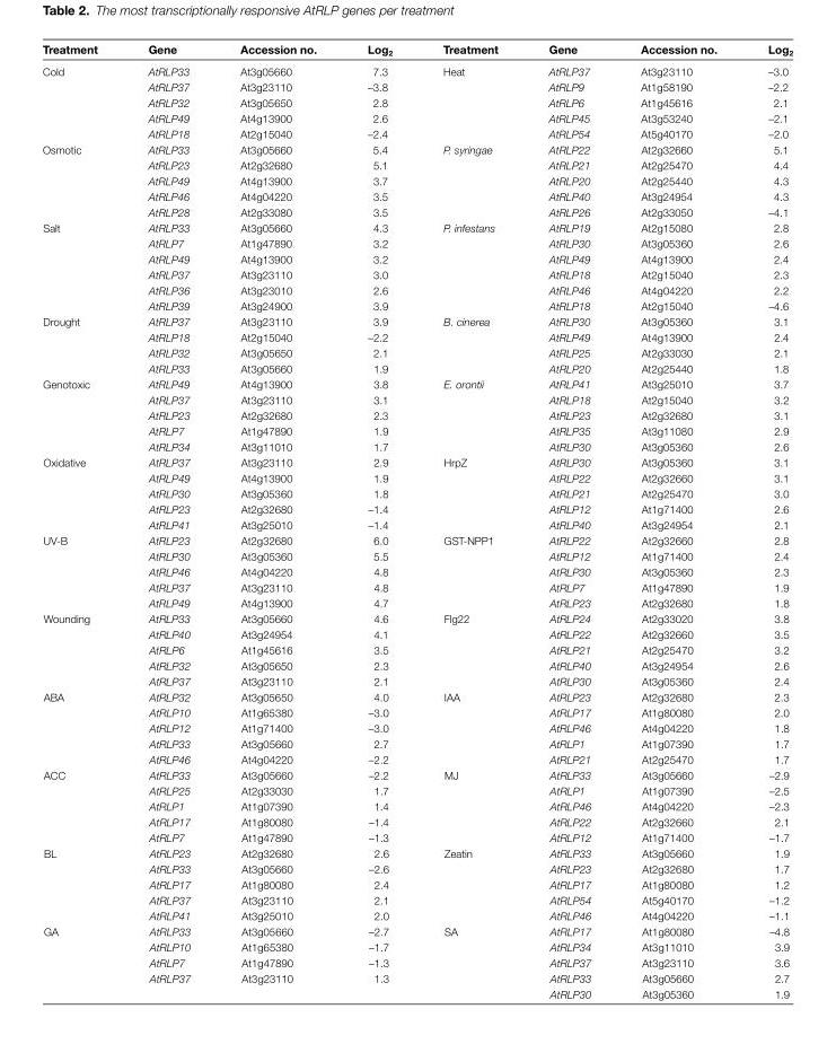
<table><thead><tr><td>Treatment</td><td>Gene</td><td>Accession no.</td><td>Log<sub>2</sub></td><td>Treatment</td><td>Gene</td><td>Accession no.</td><td>Log<sub>2</sub></td></tr></thead><tbody><tr><td rowspan="5">Cold</td><td>AtRLP33</td><td>At3g05660</td><td>7.3</td><td>Heat</td><td>AtRLP37</td><td>At3g23110</td><td>–3.0</td></tr><tr><td>AtRLP37</td><td>At3g23110</td><td>–3.8</td><td></td><td>AtRLP9</td><td>At1g58190</td><td>–2.2</td></tr><tr><td>AtRLP32</td><td>At3g05650</td><td>2.8</td><td></td><td>AtRLP6</td><td>At1g45616</td><td>2.1</td></tr><tr><td>AtRLP49</td><td>At4g13900</td><td>2.6</td><td></td><td>AtRLP45</td><td>At3g53240</td><td>–2.1</td></tr><tr><td>AtRLP18</td><td>At2g15040</td><td>–2.4</td><td></td><td>AtRLP54</td><td>At5g40170</td><td>–2.0</td></tr><tr><td rowspan="5">Osmotic</td><td>AtRLP33</td><td>At3g05660</td><td>5.4</td><td>P. syringae</td><td>AtRLP22</td><td>At2g32660</td><td>5.1</td></tr><tr><td>AtRLP23</td><td>At2g32680</td><td>5.1</td><td></td><td>AtRLP21</td><td>At2g25470</td><td>4.4</td></tr><tr><td>AtRLP49</td><td>At4g13900</td><td>3.7</td><td></td><td>AtRLP20</td><td>At2g25440</td><td>4.3</td></tr><tr><td>AtRLP46</td><td>At4g04220</td><td>3.5</td><td></td><td>AtRLP40</td><td>At3g24954</td><td>4.3</td></tr><tr><td>AtRLP28</td><td>At2g33080</td><td>3.5</td><td></td><td>AtRLP26</td><td>At2g33050</td><td>–4.1</td></tr><tr><td rowspan="6">Salt</td><td>AtRLP33</td><td>At3g05660</td><td>4.3</td><td>P. infestans</td><td>AtRLP19</td><td>At2g15080</td><td>2.8</td></tr><tr><td>AtRLP7</td><td>At1g47890</td><td>3.2</td><td></td><td>AtRLP30</td><td>At3g05360</td><td>2.6</td></tr><tr><td>AtRLP49</td><td>At4g13900</td><td>3.2</td><td></td><td>AtRLP49</td><td>At4g13900</td><td>2.4</td></tr><tr><td>AtRLP37</td><td>At3g23110</td><td>3.0</td><td></td><td>AtRLP18</td><td>At2g15040</td><td>2.3</td></tr><tr><td>AtRLP36</td><td>At3g23010</td><td>2.6</td><td></td><td>AtRLP46</td><td>At4g04220</td><td>2.2</td></tr><tr><td>AtRLP39</td><td>At3g24900</td><td>3.9</td><td></td><td>AtRLP18</td><td>At2g15040</td><td>–4.6</td></tr><tr><td rowspan="4">Drought</td><td>AtRLP37</td><td>At3g23110</td><td>3.9</td><td>B. cinerea</td><td>AtRLP30</td><td>At3g05360</td><td>3.1</td></tr><tr><td>AtRLP18</td><td>At2g15040</td><td>–2.2</td><td></td><td>AtRLP49</td><td>At4g13900</td><td>2.4</td></tr><tr><td>AtRLP32</td><td>At3g05650</td><td>2.1</td><td></td><td>AtRLP25</td><td>At2g33030</td><td>2.1</td></tr><tr><td>AtRLP33</td><td>At3g05660</td><td>1.9</td><td></td><td>AtRLP20</td><td>At2g25440</td><td>1.8</td></tr><tr><td rowspan="5">Genotoxic</td><td>AtRLP49</td><td>At4g13900</td><td>3.8</td><td>E. orontii</td><td>AtRLP41</td><td>At3g25010</td><td>3.7</td></tr><tr><td>AtRLP37</td><td>At3g23110</td><td>3.1</td><td></td><td>AtRLP18</td><td>At2g15040</td><td>3.2</td></tr><tr><td>AtRLP23</td><td>At2g32680</td><td>2.3</td><td></td><td>AtRLP23</td><td>At2g32680</td><td>3.1</td></tr><tr><td>AtRLP7</td><td>At1g47890</td><td>1.9</td><td></td><td>AtRLP35</td><td>At3g11080</td><td>2.9</td></tr><tr><td>AtRLP34</td><td>At3g11010</td><td>1.7</td><td></td><td>AtRLP30</td><td>At3g05360</td><td>2.6</td></tr><tr><td rowspan="5">Oxidative</td><td>AtRLP37</td><td>At3g23110</td><td>2.9</td><td>HrpZ</td><td>AtRLP30</td><td>At3g05360</td><td>3.1</td></tr><tr><td>AtRLP49</td><td>At4g13900</td><td>1.9</td><td></td><td>AtRLP22</td><td>At2g32660</td><td>3.1</td></tr><tr><td>AtRLP30</td><td>At3g05360</td><td>1.8</td><td></td><td>AtRLP21</td><td>At2g25470</td><td>3.0</td></tr><tr><td>AtRLP23</td><td>At2g32680</td><td>–1.4</td><td></td><td>AtRLP12</td><td>At1g71400</td><td>2.6</td></tr><tr><td>AtRLP41</td><td>At3g25010</td><td>–1.4</td><td></td><td>AtRLP40</td><td>At3g24954</td><td>2.1</td></tr><tr><td rowspan="5">UV-B</td><td>AtRLP23</td><td>At2g32680</td><td>6.0</td><td>GST-NPP1</td><td>AtRLP22</td><td>At2g32660</td><td>2.8</td></tr><tr><td>AtRLP30</td><td>At3g05360</td><td>5.5</td><td></td><td>AtRLP12</td><td>At1g71400</td><td>2.4</td></tr><tr><td>AtRLP46</td><td>At4g04220</td><td>4.8</td><td></td><td>AtRLP30</td><td>At3g05360</td><td>2.3</td></tr><tr><td>AtRLP37</td><td>At3g23110</td><td>4.8</td><td></td><td>AtRLP7</td><td>At1g47890</td><td>1.9</td></tr><tr><td>AtRLP49</td><td>At4g13900</td><td>4.7</td><td></td><td>AtRLP23</td><td>At2g32680</td><td>1.8</td></tr><tr><td rowspan="5">Wounding</td><td>AtRLP33</td><td>At3g05660</td><td>4.6</td><td>Flg22</td><td>AtRLP24</td><td>At2g33020</td><td>3.8</td></tr><tr><td>AtRLP40</td><td>At3g24954</td><td>4.1</td><td></td><td>AtRLP22</td><td>At2g32660</td><td>3.5</td></tr><tr><td>AtRLP6</td><td>At1g45616</td><td>3.5</td><td></td><td>AtRLP21</td><td>At2g25470</td><td>3.2</td></tr><tr><td>AtRLP32</td><td>At3g05650</td><td>2.3</td><td></td><td>AtRLP40</td><td>At3g24954</td><td>2.6</td></tr><tr><td>AtRLP37</td><td>At3g23110</td><td>2.1</td><td></td><td>AtRLP30</td><td>At3g05360</td><td>2.4</td></tr><tr><td rowspan="5">ABA</td><td>AtRLP32</td><td>At3g05650</td><td>4.0</td><td>IAA</td><td>AtRLP23</td><td>At2g32680</td><td>2.3</td></tr><tr><td>AtRLP10</td><td>At1g65380</td><td>–3.0</td><td></td><td>AtRLP17</td><td>At1g80080</td><td>2.0</td></tr><tr><td>AtRLP12</td><td>At1g71400</td><td>–3.0</td><td></td><td>AtRLP46</td><td>At4g04220</td><td>1.8</td></tr><tr><td>AtRLP33</td><td>At3g05660</td><td>2.7</td><td></td><td>AtRLP1</td><td>At1g07390</td><td>1.7</td></tr><tr><td>AtRLP46</td><td>At4g04220</td><td>–2.2</td><td></td><td>AtRLP21</td><td>At2g25470</td><td>1.7</td></tr><tr><td rowspan="5">ACC</td><td>AtRLP33</td><td>At3g05660</td><td>–2.2</td><td>MJ</td><td>AtRLP33</td><td>At3g05660</td><td>–2.9</td></tr><tr><td>AtRLP25</td><td>At2g33030</td><td>1.7</td><td></td><td>AtRLP1</td><td>At1g07390</td><td>–2.5</td></tr><tr><td>AtRLP1</td><td>At1g07390</td><td>1.4</td><td></td><td>AtRLP46</td><td>At4g04220</td><td>–2.3</td></tr><tr><td>AtRLP17</td><td>At1g80080</td><td>–1.4</td><td></td><td>AtRLP22</td><td>At2g32660</td><td>2.1</td></tr><tr><td>AtRLP7</td><td>At1g47890</td><td>–1.3</td><td></td><td>AtRLP12</td><td>At1g71400</td><td>–1.7</td></tr><tr><td rowspan="5">BL</td><td>AtRLP23</td><td>At2g32680</td><td>2.6</td><td>Zeatin</td><td>AtRLP33</td><td>At3g05660</td><td>1.9</td></tr><tr><td>AtRLP33</td><td>At3g05660</td><td>–2.6</td><td></td><td>AtRLP23</td><td>At2g32680</td><td>1.7</td></tr><tr><td>AtRLP17</td><td>At1g80080</td><td>2.4</td><td></td><td>AtRLP17</td><td>At1g80080</td><td>1.2</td></tr><tr><td>AtRLP37</td><td>At3g23110</td><td>2.1</td><td></td><td>AtRLP54</td><td>At5g40170</td><td>–1.2</td></tr><tr><td>AtRLP41</td><td>At3g25010</td><td>2.0</td><td></td><td>AtRLP46</td><td>At4g04220</td><td>–1.1</td></tr><tr><td rowspan="5">GA</td><td>AtRLP33</td><td>At3g05660</td><td>–2.7</td><td>SA</td><td>AtRLP17</td><td>At1g80080</td><td>–4.8</td></tr><tr><td>AtRLP10</td><td>At1g65380</td><td>–1.7</td><td></td><td>AtRLP34</td><td>At3g11010</td><td>3.9</td></tr><tr><td>AtRLP7</td><td>At1g47890</td><td>–1.3</td><td></td><td>AtRLP37</td><td>At3g23110</td><td>3.6</td></tr><tr><td>AtRLP37</td><td>At3g23110</td><td>1.3</td><td></td><td>AtRLP33</td><td>At3g05660</td><td>2.7</td></tr><tr><td></td><td></td><td></td><td></td><td>AtRLP30</td><td>At3g05360</td><td>1.9</td></tr></tbody></table>